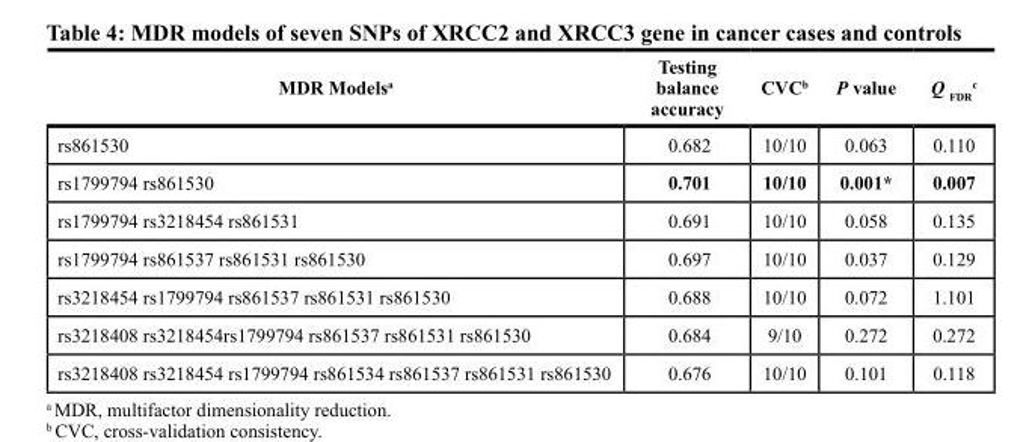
<table><thead><tr><td>MDR Models<sup>a</sup></td><td>Testing balance accuracy</td><td>CVC<sup>b</sup></td><td>P value</td><td>Q <sub>FDR</sub> <sup>c</sup></td></tr></thead><tbody><tr><td>rs861530</td><td>0.682</td><td>10/10</td><td>0.063</td><td>0.110</td></tr><tr><td>rs1799794 rs861530</td><td>0.701</td><td>10/10</td><td>0.001*</td><td>0.007</td></tr><tr><td>rs1799794 rs3218454 rs861531</td><td>0.691</td><td>10/10</td><td>0.058</td><td>0.135</td></tr><tr><td>rs1799794 rs861537 rs861531 rs861530</td><td>0.697</td><td>10/10</td><td>0.037</td><td>0.129</td></tr><tr><td>rs3218454 rs1799794 rs861537 rs861531 rs861530</td><td>0.688</td><td>10/10</td><td>0.072</td><td>1.101</td></tr><tr><td>rs3218408 rs3218454rs1799794 rs861537 rs861531 rs861530</td><td>0.684</td><td>9/10</td><td>0.272</td><td>0.272</td></tr><tr><td>rs3218408 rs3218454 rs1799794 rs861534 rs861537 rs861531 rs861530</td><td>0.676</td><td>10/10</td><td>0.101</td><td>0.118</td></tr></tbody></table>